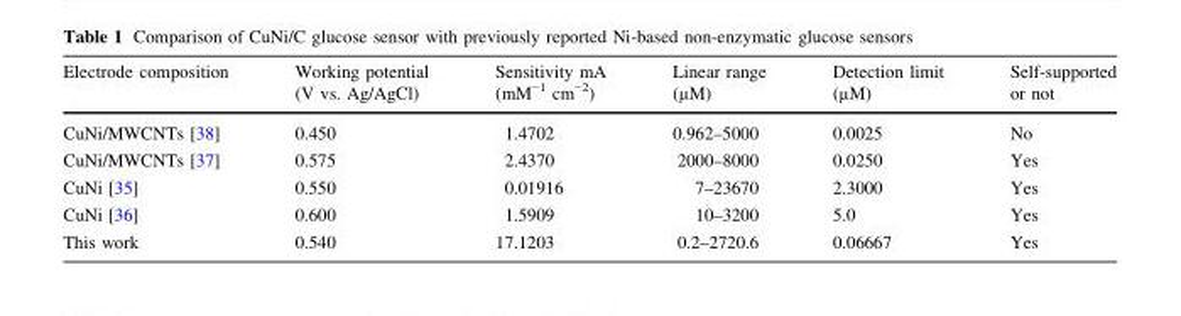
<table><thead><tr><td>Electrode composition</td><td>Working potential (V vs. Ag/AgCl)</td><td>Sensitivity mA (mM<sup>−1</sup> cm<sup>−2</sup>)</td><td>Linear range (µM)</td><td>Detection limit (µM)</td><td>Self-supported or not</td></tr></thead><tbody><tr><td>CuNi/MWCNTs [38]</td><td>0.450</td><td>1.4702</td><td>0.962–5000</td><td>0.0025</td><td>No</td></tr><tr><td>CuNi/MWCNTs [37]</td><td>0.575</td><td>2.4370</td><td>2000–8000</td><td>0.0250</td><td>Yes</td></tr><tr><td>CuNi [35]</td><td>0.550</td><td>0.01916</td><td>7–23670</td><td>2.3000</td><td>Yes</td></tr><tr><td>CuNi [36]</td><td>0.600</td><td>1.5909</td><td>10–3200</td><td>5.0</td><td>Yes</td></tr><tr><td>This work</td><td>0.540</td><td>17.1203</td><td>0.2–2720.6</td><td>0.06667</td><td>Yes</td></tr></tbody></table>